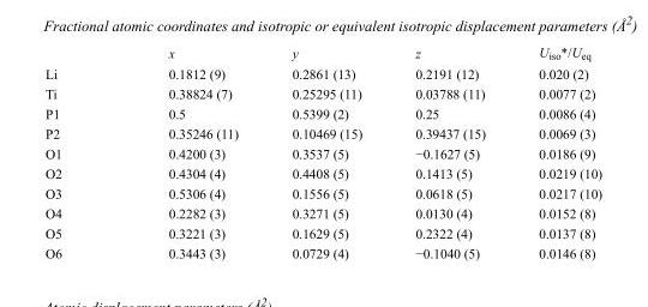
<table><thead><tr><td></td><td>x</td><td>y</td><td>z</td><td>U<sub>iso</sub>*/U<sub>eq</sub></td></tr></thead><tbody><tr><td>Li</td><td>0.1812 (9)</td><td>0.2861 (13)</td><td>0.2191 (12)</td><td>0.020 (2)</td></tr><tr><td>Ti</td><td>0.38824 (7)</td><td>0.25295 (11)</td><td>0.03788 (11)</td><td>0.0077 (2)</td></tr><tr><td>P1</td><td>0.5</td><td>0.5399 (2)</td><td>0.25</td><td>0.0086 (4)</td></tr><tr><td>P2</td><td>0.35246 (11)</td><td>0.10469 (15)</td><td>0.39437 (15)</td><td>0.0069 (3)</td></tr><tr><td>O1</td><td>0.4200 (3)</td><td>0.3537 (5)</td><td>−0.1627 (5)</td><td>0.0186 (9)</td></tr><tr><td>O2</td><td>0.4304 (4)</td><td>0.4408 (5)</td><td>0.1413 (5)</td><td>0.0219 (10)</td></tr><tr><td>O3</td><td>0.5306 (4)</td><td>0.1556 (5)</td><td>0.0618 (5)</td><td>0.0217 (10)</td></tr><tr><td>O4</td><td>0.2282 (3)</td><td>0.3271 (5)</td><td>0.0130 (4)</td><td>0.0152 (8)</td></tr><tr><td>O5</td><td>0.3221 (3)</td><td>0.1629 (5)</td><td>0.2322 (4)</td><td>0.0137 (8)</td></tr><tr><td>O6</td><td>0.3443 (3)</td><td>0.0729 (4)</td><td>−0.1040 (5)</td><td>0.0146 (8)</td></tr></tbody></table>